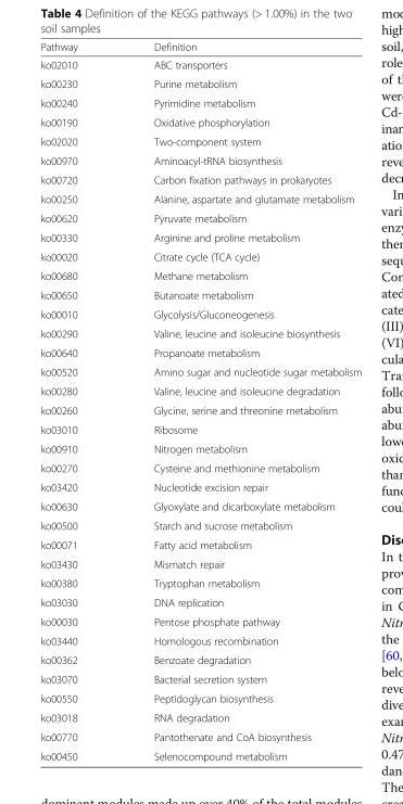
<table><thead><tr><td>Pathway</td><td>Definition</td></tr></thead><tbody><tr><td>ko02010</td><td>ABC transporters</td></tr><tr><td>ko00230</td><td>Purine metabolism</td></tr><tr><td>ko00240</td><td>Pyrimidine metabolism</td></tr><tr><td>ko00190</td><td>Oxidative phosphorylation</td></tr><tr><td>ko02020</td><td>Two-component system</td></tr><tr><td>ko00970</td><td>Aminoacyl-tRNA biosynthesis</td></tr><tr><td>ko00720</td><td>Carbon fixation pathways in prokaryotes</td></tr><tr><td>ko00250</td><td>Alanine, aspartate and glutamate metabolism</td></tr><tr><td>ko00620</td><td>Pyruvate metabolism</td></tr><tr><td>ko00330</td><td>Arginine and proline metabolism</td></tr><tr><td>ko00020</td><td>Citrate cycle (TCA cycle)</td></tr><tr><td>ko00680</td><td>Methane metabolism</td></tr><tr><td>ko00650</td><td>Butanoate metabolism</td></tr><tr><td>ko00010</td><td>Glycolysis/Gluconeogenesis</td></tr><tr><td>ko00290</td><td>Valine, leucine and isoleucine biosynthesis</td></tr><tr><td>ko00640</td><td>Propanoate metabolism</td></tr><tr><td>ko00520</td><td>Amino sugar and nucleotide sugar metabolism</td></tr><tr><td>ko00280</td><td>Valine, leucine and isoleucine degradation</td></tr><tr><td>ko00260</td><td>Glycine, serine and threonine metabolism</td></tr><tr><td>ko03010</td><td>Ribosome</td></tr><tr><td>ko00910</td><td>Nitrogen metabolism</td></tr><tr><td>ko00270</td><td>Cysteine and methionine metabolism</td></tr><tr><td>ko03420</td><td>Nucleotide excision repair</td></tr><tr><td>ko00630</td><td>Glyoxylate and dicarboxylate metabolism</td></tr><tr><td>ko00500</td><td>Starch and sucrose metabolism</td></tr><tr><td>ko00071</td><td>Fatty acid metabolism</td></tr><tr><td>ko03430</td><td>Mismatch repair</td></tr><tr><td>ko00380</td><td>Tryptophan metabolism</td></tr><tr><td>ko03030</td><td>DNA replication</td></tr><tr><td>ko00030</td><td>Pentose phosphate pathway</td></tr><tr><td>ko03440</td><td>Homologous recombination</td></tr><tr><td>ko00362</td><td>Benzoate degradation</td></tr><tr><td>ko03070</td><td>Bacterial secretion system</td></tr><tr><td>ko00550</td><td>Peptidoglycan biosynthesis</td></tr><tr><td>ko03018</td><td>RNA degradation</td></tr><tr><td>ko00770</td><td>Pantothenate and CoA biosynthesis</td></tr><tr><td>ko00450</td><td>Selenocompound metabolism</td></tr></tbody></table>